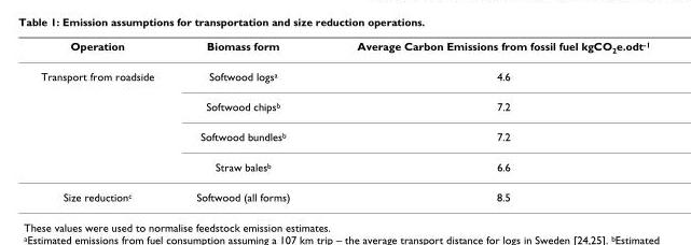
<table><thead><tr><td>Operation</td><td>Biomass form</td><td>Average Carbon Emissions from fossil fuel kgCO<sub>2</sub>e.odt<sup>-1</sup></td></tr></thead><tbody><tr><td rowspan="4">Transport from roadside</td><td>Softwood logs<sup>a</sup></td><td>4.6</td></tr><tr><td>Softwood chips<sup>b</sup></td><td>7.2</td></tr><tr><td>Softwood bundles<sup>b</sup></td><td>7.2</td></tr><tr><td>Straw bales<sup>b</sup></td><td>6.6</td></tr><tr><td>Size reduction<sup>c</sup></td><td>Softwood (all forms)</td><td>8.5</td></tr></tbody></table>